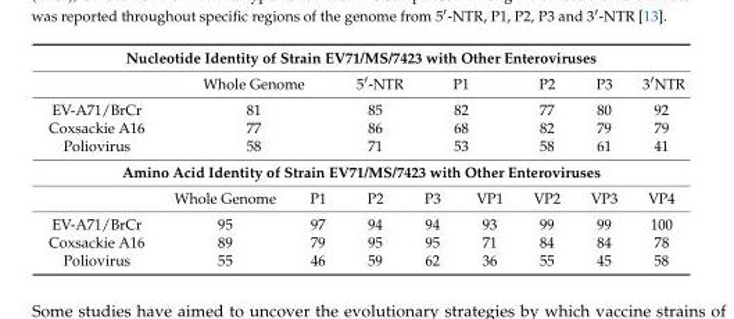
<table><tbody><tr><td colspan="9">Nucleotide Identity of Strain EV71/MS/7423 with Other Enteroviruses</td></tr><tr><td></td><td colspan="2">Whole Genome</td><td>5′-NTR</td><td colspan="2">P1</td><td>P2</td><td>P3</td><td>3′NTR</td></tr><tr><td>EV-A71/BrCr</td><td colspan="2">81</td><td>85</td><td colspan="2">82</td><td>77</td><td>80</td><td>92</td></tr><tr><td>Coxsackie A16</td><td colspan="2">77</td><td>86</td><td colspan="2">68</td><td>82</td><td>79</td><td>79</td></tr><tr><td>Poliovirus</td><td colspan="2">58</td><td>71</td><td colspan="2">53</td><td>58</td><td>61</td><td>41</td></tr><tr><td colspan="9">Amino Acid Identity of Strain EV71/MS/7423 with Other Enteroviruses</td></tr><tr><td></td><td>Whole Genome</td><td>P1</td><td>P2</td><td>P3</td><td>VP1</td><td>VP2</td><td>VP3</td><td>VP4</td></tr><tr><td>EV-A71/BrCr</td><td>95</td><td>97</td><td>94</td><td>94</td><td>93</td><td>99</td><td>99</td><td>100</td></tr><tr><td>Coxsackie A16</td><td>89</td><td>79</td><td>95</td><td>95</td><td>71</td><td>84</td><td>84</td><td>78</td></tr><tr><td>Poliovirus</td><td>55</td><td>46</td><td>59</td><td>62</td><td>36</td><td>55</td><td>45</td><td>58</td></tr></tbody></table>